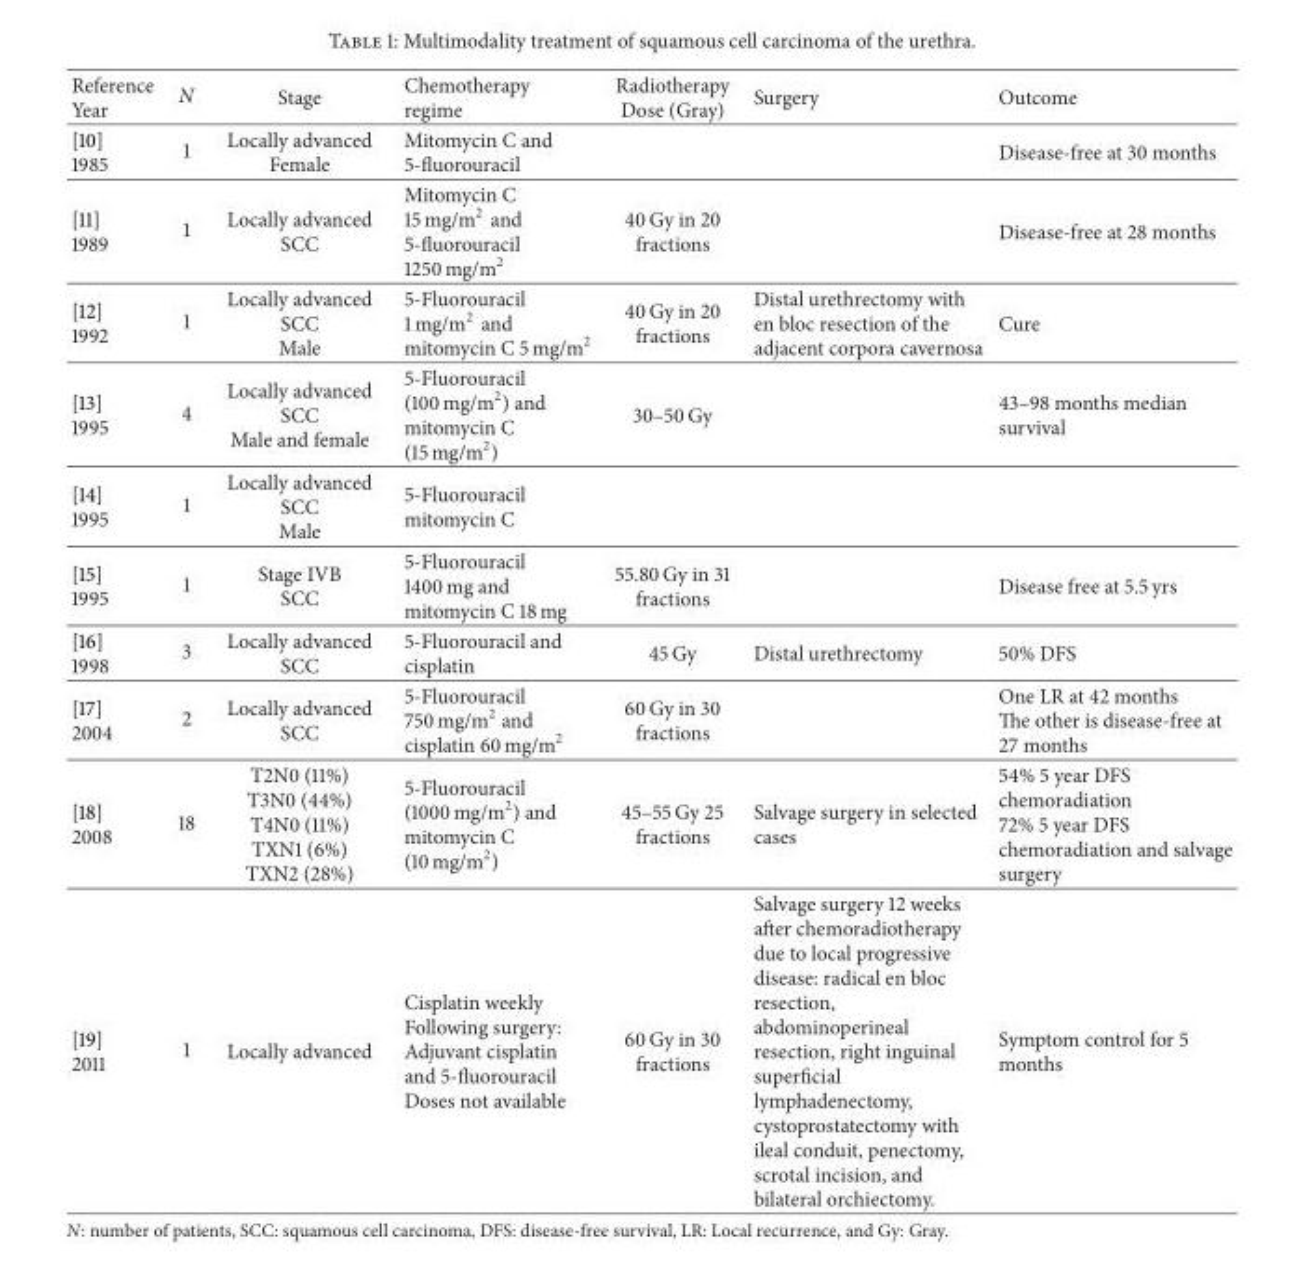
<table><thead><tr><td>Reference Year</td><td>N</td><td>Stage</td><td>Chemotherapy regime</td><td>Radiotherapy Dose (Gray)</td><td>Surgery</td><td>Outcome</td></tr></thead><tbody><tr><td>[10] 1985</td><td>1</td><td>Locally advanced Female</td><td>Mitomycin C and 5-fluorouracil</td><td></td><td></td><td>Disease-free at 30 months</td></tr><tr><td>[11] 1989</td><td>1</td><td>Locally advanced SCC</td><td>Mitomycin C 15 mg/m<sup>2</sup> and 5-fluorouracil 1250 mg/m<sup>2</sup></td><td>40 Gy in 20 fractions</td><td></td><td>Disease-free at 28 months</td></tr><tr><td>[12] 1992</td><td>1</td><td>Locally advanced SCC Male</td><td>5-Fluorouracil 1 mg/m<sup>2</sup> and mitomycin C 5 mg/m<sup>2</sup></td><td>40 Gy in 20 fractions</td><td>Distal urethrectomy with en bloc resection of the adjacent corpora cavernosa</td><td>Cure</td></tr><tr><td>[13] 1995</td><td>4</td><td>Locally advanced SCC Male and female</td><td>5-Fluorouracil (100 mg/m<sup>2</sup>) and mitomycin C (15 mg/m<sup>2</sup>)</td><td>30–50 Gy</td><td></td><td>43–98 months median survival</td></tr><tr><td>[14] 1995</td><td>1</td><td>Locally advanced SCC Male</td><td>5-Fluorouracil mitomycin C</td><td></td><td></td><td></td></tr><tr><td>[15] 1995</td><td>1</td><td>Stage IVB SCC</td><td>5-Fluorouracil 1400 mg and mitomycin C 18 mg</td><td>55.80 Gy in 31 fractions</td><td></td><td>Disease free at 5.5 yrs</td></tr><tr><td>[16] 1998</td><td>3</td><td>Locally advanced SCC</td><td>5-Fluorouracil and cisplatin</td><td>45 Gy</td><td>Distal urethrectomy</td><td>50% DFS</td></tr><tr><td>[17] 2004</td><td>2</td><td>Locally advanced SCC</td><td>5-Fluorouracil 750 mg/m<sup>2</sup> and cisplatin 60 mg/m<sup>2</sup></td><td>60 Gy in 30 fractions</td><td></td><td>One LR at 42 months The other is disease-free at 27 months</td></tr><tr><td>[18] 2008</td><td>18</td><td>T2N0 (11%) T3N0 (44%) T4N0 (11%) TXN1 (6%) TXN2 (28%)</td><td>5-Fluorouracil (1000 mg/m<sup>2</sup>) and mitomycin C (10 mg/m<sup>2</sup>)</td><td>45–55 Gy 25 fractions</td><td>Salvage surgery in selected cases</td><td>54% 5 year DFS chemoradiation 72% 5 year DFS chemoradiation and salvage surgery</td></tr><tr><td>[19] 2011</td><td>1</td><td>Locally advanced</td><td>Cisplatin weekly Following surgery: Adjuvant cisplatin and 5-fluorouracil Doses not available</td><td>60 Gy in 30 fractions</td><td>Salvage surgery 12 weeks after chemoradiotherapy due to local progressive disease: radical en bloc resection, abdominoperineal resection, right inguinal superficial lymphadenectomy, cystoprostatectomy with ileal conduit, penectomy, scrotal incision, and bilateral orchiectomy.</td><td>Symptom control for 5 months</td></tr></tbody></table>